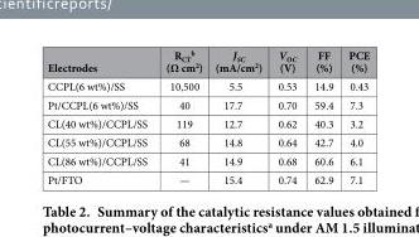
<table><thead><tr><td>Electrodes</td><td>R<sub>CT</sub> <sup>b</sup> (Ω cm<sup>2</sup>)</td><td>J<sub>SC</sub> (mA/cm<sup>2</sup>)</td><td>V<sub>OC</sub> (V)</td><td>FF (%)</td><td>PCE (%)</td></tr></thead><tbody><tr><td>CCPL(6 wt%)/SS</td><td>10,500</td><td>5.5</td><td>0.53</td><td>14.9</td><td>0.43</td></tr><tr><td>Pt/CCPL(6 wt%)/SS</td><td>40</td><td>17.7</td><td>0.70</td><td>59.4</td><td>7.3</td></tr><tr><td>CL(40 wt%)/CCPL/SS</td><td>119</td><td>12.7</td><td>0.62</td><td>40.3</td><td>3.2</td></tr><tr><td>CL(55 wt%)/CCPL/SS</td><td>68</td><td>14.8</td><td>0.64</td><td>42.7</td><td>4.0</td></tr><tr><td>CL(86 wt%)/CCPL/SS</td><td>41</td><td>14.9</td><td>0.68</td><td>60.6</td><td>6.1</td></tr><tr><td>Pt/FTO</td><td>—</td><td>15.4</td><td>0.74</td><td>62.9</td><td>7.1</td></tr></tbody></table>